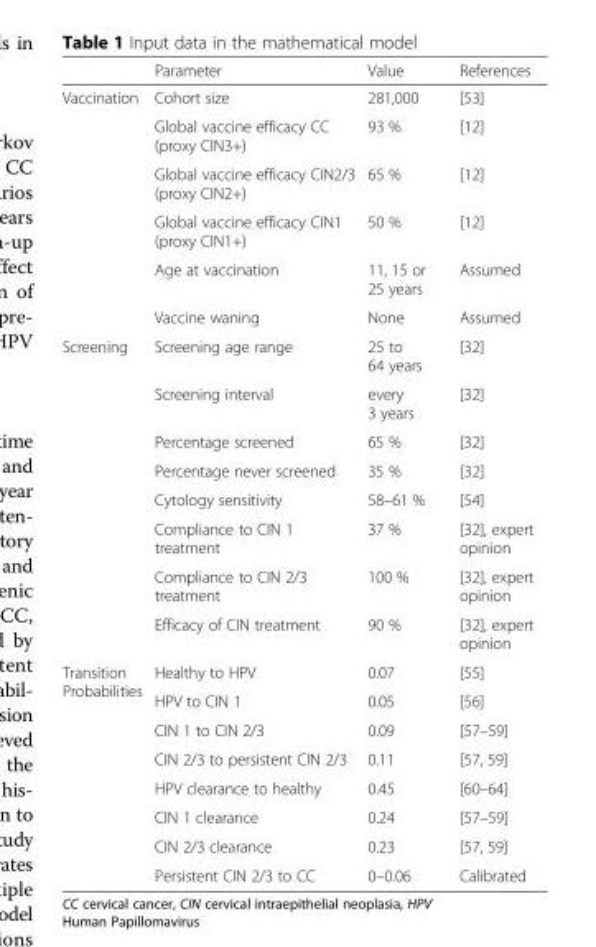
<table><thead><tr><td></td><td>Parameter</td><td>Value</td><td>References</td></tr></thead><tbody><tr><td rowspan="6">Vaccination</td><td>Cohort size</td><td>281,000</td><td>[53]</td></tr><tr><td>Global vaccine efficacy CC (proxy CIN3+)</td><td>93 %</td><td>[12]</td></tr><tr><td>Global vaccine efficacy CIN2/3 (proxy CIN2+)</td><td>65 %</td><td>[12]</td></tr><tr><td>Global vaccine efficacy CIN1 (proxy CIN1+)</td><td>50 %</td><td>[12]</td></tr><tr><td>Age at vaccination</td><td>11, 15 or 25 years</td><td>Assumed</td></tr><tr><td>Vaccine waning</td><td>None</td><td>Assumed</td></tr><tr><td rowspan="8">Screening</td><td>Screening age range</td><td>25 to 64 years</td><td>[32]</td></tr><tr><td>Screening interval</td><td>every 3 years</td><td>[32]</td></tr><tr><td>Percentage screened</td><td>65 %</td><td>[32]</td></tr><tr><td>Percentage never screened</td><td>35 %</td><td>[32]</td></tr><tr><td>Cytology sensitivity</td><td>58–61 %</td><td>[54]</td></tr><tr><td>Compliance to CIN 1 treatment</td><td>37 %</td><td>[32], expert opinion</td></tr><tr><td>Compliance to CIN 2/3 treatment</td><td>100 %</td><td>[32], expert opinion</td></tr><tr><td>Efficacy of CIN treatment</td><td>90 %</td><td>[32], expert opinion</td></tr><tr><td rowspan="8">Transition Probabilities</td><td>Healthy to HPV</td><td>0.07</td><td>[55]</td></tr><tr><td>HPV to CIN 1</td><td>0.05</td><td>[56]</td></tr><tr><td>CIN 1 to CIN 2/3</td><td>0.09</td><td>[57–59]</td></tr><tr><td>CIN 2/3 to persistent CIN 2/3</td><td>0.11</td><td>[57, 59]</td></tr><tr><td>HPV clearance to healthy</td><td>0.45</td><td>[60–64]</td></tr><tr><td>CIN 1 clearance</td><td>0.24</td><td>[57–59]</td></tr><tr><td>CIN 2/3 clearance</td><td>0.23</td><td>[57, 59]</td></tr><tr><td>Persistent CIN 2/3 to CC</td><td>0–0.06</td><td>Calibrated</td></tr></tbody></table>